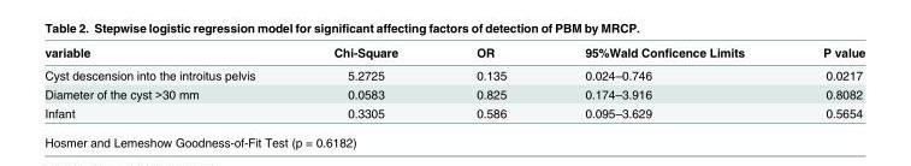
<table><thead><tr><td>variable</td><td>Chi-Square</td><td>OR</td><td>95%Wald Conficence Limits</td><td>P value</td></tr></thead><tbody><tr><td>Cyst descension into the introitus pelvis</td><td>5.2725</td><td>0.135</td><td>0.024–0.746</td><td>0.0217</td></tr><tr><td>Diameter of the cyst &gt;30 mm</td><td>0.0583</td><td>0.825</td><td>0.174–3.916</td><td>0.8082</td></tr><tr><td>Infant</td><td>0.3305</td><td>0.586</td><td>0.095–3.629</td><td>0.5654</td></tr></tbody></table>